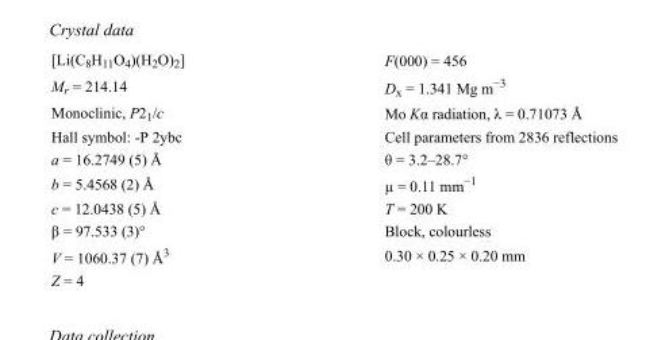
<table><tbody><tr><td>[Li(C<sub>8</sub>H<sub>11</sub>O<sub>4</sub>)(H<sub>2</sub>O)<sub>2</sub>]</td><td>F(000) = 456</td></tr><tr><td>M<sub>r</sub> = 214.14</td><td>D<sub>x</sub> = 1.341 Mg m<sup>−3</sup></td></tr><tr><td>Monoclinic, P2<sub>1</sub>/c</td><td>Mo Kα radiation, λ = 0.71073 Å</td></tr><tr><td>Hall symbol: -P 2ybc</td><td>Cell parameters from 2836 reflections</td></tr><tr><td>a = 16.2749 (5) Å</td><td>θ = 3.2–28.7°</td></tr><tr><td>b = 5.4568 (2) Å</td><td>µ = 0.11 mm<sup>−1</sup></td></tr><tr><td>c = 12.0438 (5) Å</td><td>T = 200 K</td></tr><tr><td>β = 97.533 (3)°</td><td>Block, colourless</td></tr><tr><td>V = 1060.37 (7) Å<sup>3</sup></td><td>0.30 × 0.25 × 0.20 mm</td></tr><tr><td>Z = 4</td><td></td></tr></tbody></table>